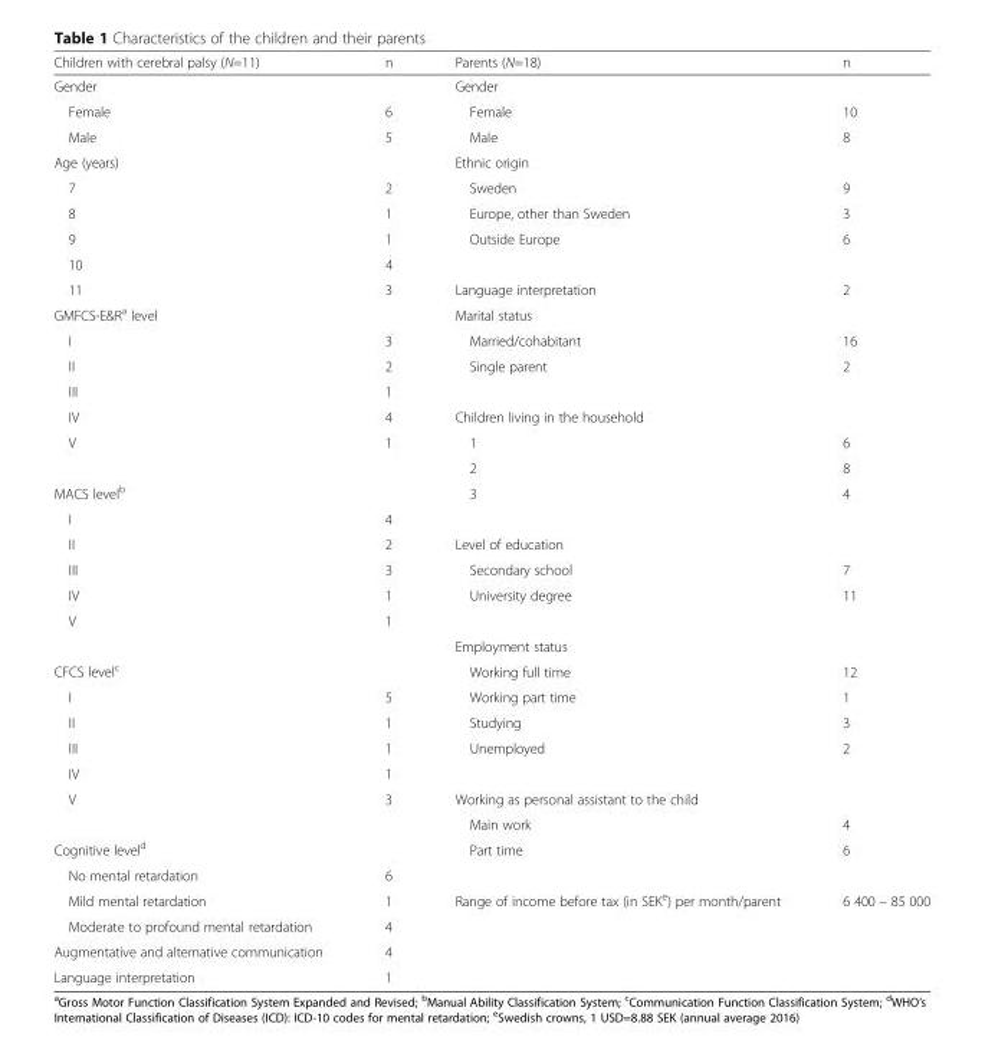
<table><thead><tr><td>Children with cerebral palsy (N=11)</td><td>n</td><td>Parents (N=18)</td><td>n</td></tr></thead><tbody><tr><td>Gender</td><td></td><td>Gender</td><td></td></tr><tr><td>Female</td><td>6</td><td>Female</td><td>10</td></tr><tr><td>Male</td><td>5</td><td>Male</td><td>8</td></tr><tr><td>Age (years)</td><td></td><td>Ethnic origin</td><td></td></tr><tr><td>7</td><td>2</td><td>Sweden</td><td>9</td></tr><tr><td>8</td><td>1</td><td>Europe, other than Sweden</td><td>3</td></tr><tr><td>9</td><td>1</td><td>Outside Europe</td><td>6</td></tr><tr><td>10</td><td>4</td><td></td><td></td></tr><tr><td>11</td><td>3</td><td>Language interpretation</td><td>2</td></tr><tr><td>GMFCS-E&amp;R<sup>a</sup> level</td><td></td><td>Marital status</td><td></td></tr><tr><td>I</td><td>3</td><td>Married/cohabitant</td><td>16</td></tr><tr><td>II</td><td>2</td><td>Single parent</td><td>2</td></tr><tr><td>III</td><td>1</td><td></td><td></td></tr><tr><td>IV</td><td>4</td><td>Children living in the household</td><td></td></tr><tr><td rowspan="2">V</td><td>1</td><td>1</td><td>6</td></tr><tr><td></td><td>2</td><td>8</td></tr><tr><td>MACS level<sup>b</sup></td><td></td><td>3</td><td>4</td></tr><tr><td>I</td><td>4</td><td></td><td></td></tr><tr><td>II</td><td>2</td><td>Level of education</td><td></td></tr><tr><td>III</td><td>3</td><td>Secondary school</td><td>7</td></tr><tr><td>IV</td><td>1</td><td>University degree</td><td>11</td></tr><tr><td rowspan="2">V</td><td>1</td><td></td><td></td></tr><tr><td></td><td>Employment status</td><td></td></tr><tr><td>CFCS level<sup>c</sup></td><td></td><td>Working full time</td><td>12</td></tr><tr><td>I</td><td>5</td><td>Working part time</td><td>1</td></tr><tr><td>II</td><td>1</td><td>Studying</td><td>3</td></tr><tr><td>III</td><td>1</td><td>Unemployed</td><td>2</td></tr><tr><td>IV</td><td>1</td><td></td><td></td></tr><tr><td rowspan="2">V</td><td>3</td><td>Working as personal assistant to the child</td><td></td></tr><tr><td></td><td>Main work</td><td>4</td></tr><tr><td>Cognitive level<sup>d</sup></td><td></td><td>Part time</td><td>6</td></tr><tr><td>No mental retardation</td><td>6</td><td></td><td></td></tr><tr><td>Mild mental retardation</td><td>1</td><td rowspan="2">Range of income before tax (in SEK<sup>e</sup>) per month/parent</td><td>6 400 – 85 000</td></tr><tr><td>Moderate to profound mental retardation</td><td>4</td><td></td></tr><tr><td>Augmentative and alternative communication</td><td>4</td><td></td><td></td></tr><tr><td>Language interpretation</td><td>1</td><td></td><td></td></tr></tbody></table>